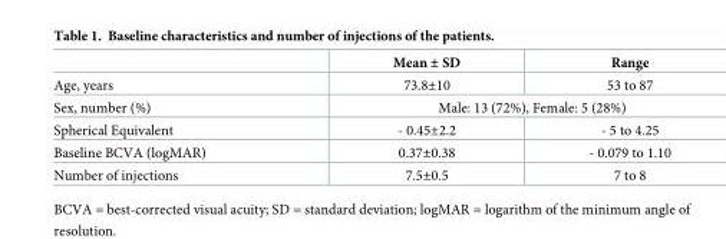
<table><thead><tr><td></td><td>Mean ± SD</td><td>Range</td></tr></thead><tbody><tr><td>Age, years</td><td>73.8±10</td><td>53 to 87</td></tr><tr><td>Sex, number (%)</td><td colspan="2">Male: 13 (72%), Female: 5 (28%)</td></tr><tr><td>Spherical Equivalent</td><td>- 0.45±2.2</td><td>- 5 to 4.25</td></tr><tr><td>Baseline BCVA (logMAR)</td><td>0.37±0.38</td><td>- 0.079 to 1.10</td></tr><tr><td>Number of injections</td><td>7.5±0.5</td><td>7 to 8</td></tr></tbody></table>